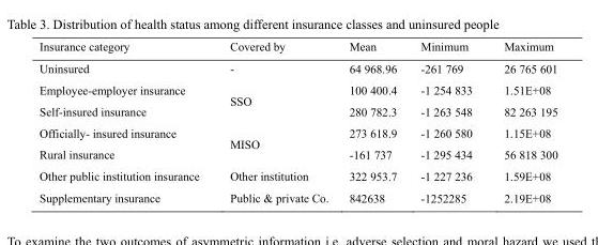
<table><thead><tr><td>Insurance category</td><td>Covered by</td><td>Mean</td><td>Minimum</td><td>Maximum</td></tr></thead><tbody><tr><td>Uninsured</td><td>-</td><td>64 968.96</td><td>-261 769</td><td>26 765 601</td></tr><tr><td>Employee-employer insurance</td><td rowspan="2">SSO</td><td>100 400.4</td><td>-1 254 833</td><td>1.51E+08</td></tr><tr><td>Self-insured insurance</td><td>280 782.3</td><td>-1 263 548</td><td>82 263 195</td></tr><tr><td>Officially- insured insurance</td><td rowspan="2">MISO</td><td>273 618.9</td><td>-1 260 580</td><td>1.15E+08</td></tr><tr><td>Rural insurance</td><td>-161 737</td><td>-1 295 434</td><td>56 818 300</td></tr><tr><td>Other public institution insurance</td><td>Other institution</td><td>322 953.7</td><td>-1 227 236</td><td>1.59E+08</td></tr><tr><td>Supplementary insurance</td><td>Public &amp; private Co.</td><td>842638</td><td>-1252285</td><td>2.19E+08</td></tr></tbody></table>